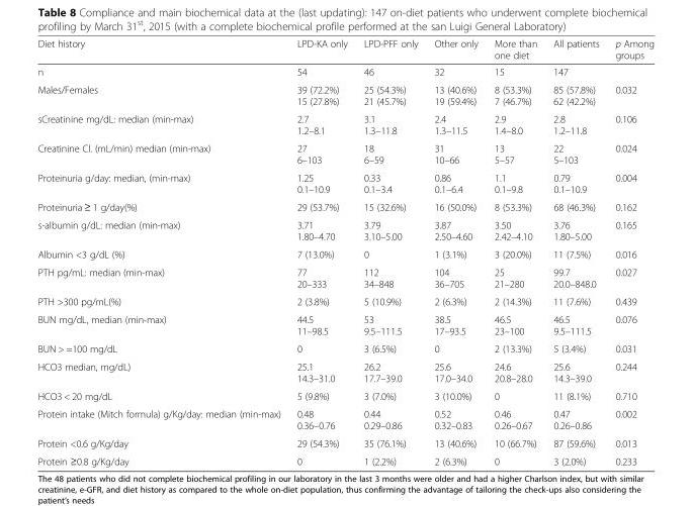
<table><thead><tr><td>Diet history</td><td>LPD-KA only</td><td>LPD-PFF only</td><td>Other only</td><td>More than one diet</td><td>All patients</td><td>p Among groups</td></tr></thead><tbody><tr><td>n</td><td>54</td><td>46</td><td>32</td><td>15</td><td>147</td><td></td></tr><tr><td>Males/Females</td><td>39 (72.2%) 15 (27.8%)</td><td>25 (54.3%) 21 (45.7%)</td><td>13 (40.6%) 19 (59.4%)</td><td>8 (53.3%) 7 (46.7%)</td><td>85 (57.8%) 62 (42.2%)</td><td>0.032</td></tr><tr><td>sCreatinine mg/dL: median (min-max)</td><td>2.7 1.2–8.1</td><td>3.1 1.3–11.8</td><td>2.4 1.3–11.5</td><td>2.9 1.4–8.0</td><td>2.8 1.2–11.8</td><td>0.106</td></tr><tr><td>Creatinine Cl. (mL/min) median (min-max)</td><td>27 6–103</td><td>18 6–59</td><td>31 10–66</td><td>13 5–57</td><td>22 5–103</td><td>0.024</td></tr><tr><td>Proteinuria g/day: median, (min-max)</td><td>1.25 0.1–10.9</td><td>0.33 0.1–3.4</td><td>0.86 0.1–6.4</td><td>1.1 0.1–9.8</td><td>0.79 0.1–10.9</td><td>0.004</td></tr><tr><td>Proteinuria ≥ 1 g/day(%)</td><td>29 (53.7%)</td><td>15 (32.6%)</td><td>16 (50.0%)</td><td>8 (53.3%)</td><td>68 (46.3%)</td><td>0.162</td></tr><tr><td>s-albumin g/dL: median (min-max)</td><td>3.71 1.80–4.70</td><td>3.79 3.10–5.00</td><td>3.87 2.50–4.60</td><td>3.50 2.42–4.10</td><td>3.76 1.80–5.00</td><td>0.165</td></tr><tr><td>Albumin &lt;3 g/dL (%)</td><td>7 (13.0%)</td><td>0</td><td>1 (3.1%)</td><td>3 (20.0%)</td><td>11 (7.5%)</td><td>0.016</td></tr><tr><td>PTH pg/mL: median (min-max)</td><td>77 20–333</td><td>112 34–848</td><td>104 36–705</td><td>25 21–280</td><td>99.7 20.0–848.0</td><td>0.027</td></tr><tr><td>PTH &gt;300 pg/mL(%)</td><td>2 (3.8%)</td><td>5 (10.9%)</td><td>2 (6.3%)</td><td>2 (14.3%)</td><td>11 (7.6%)</td><td>0.439</td></tr><tr><td>BUN mg/dL, median (min-max)</td><td>44.5 11–98.5</td><td>53 9.5–111.5</td><td>38.5 17–93.5</td><td>46.5 23–100</td><td>46.5 9.5–111.5</td><td>0.076</td></tr><tr><td>BUN &gt; =100 mg/dL</td><td>0</td><td>3 (6.5%)</td><td>0</td><td>2 (13.3%)</td><td>5 (3.4%)</td><td>0.031</td></tr><tr><td>HCO3 median, mg/dL)</td><td>25.1 14.3–31.0</td><td>26.2 17.7–39.0</td><td>25.6 17.0–34.0</td><td>24.6 20.8–28.0</td><td>25.6 14.3–39.0</td><td>0.244</td></tr><tr><td>HCO3 &lt; 20 mg/dL</td><td>5 (9.8%)</td><td>3 (7.0%)</td><td>3 (10.0%)</td><td>0</td><td>11 (8.1%)</td><td>0.710</td></tr><tr><td>Protein intake (Mitch formula) g/Kg/day: median (min-max)</td><td>0.48 0.36–0.76</td><td>0.44 0.29–0.86</td><td>0.52 0.32–0.83</td><td>0.46 0.26–0.67</td><td>0.47 0.26–0.86</td><td>0.002</td></tr><tr><td>Protein &lt;0.6 g/Kg/day</td><td>29 (54.3%)</td><td>35 (76.1%)</td><td>13 (40.6%)</td><td>10 (66.7%)</td><td>87 (59.6%)</td><td>0.013</td></tr><tr><td>Protein ≥0.8 g/Kg/day</td><td>0</td><td>1 (2.2%)</td><td>2 (6.3%)</td><td>0</td><td>3 (2.0%)</td><td>0.233</td></tr></tbody></table>